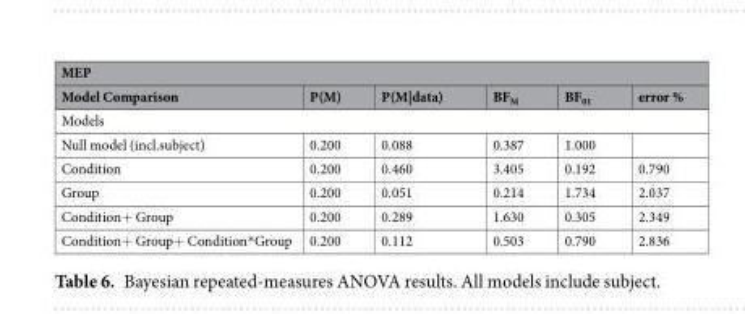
<table><thead><tr><td colspan="6">MEP</td></tr><tr><td>Model Comparison</td><td>P(M)</td><td>P(M|data)</td><td>BF<sub>M</sub></td><td>BF<sub>01</sub></td><td>error %</td></tr></thead><tbody><tr><td colspan="6">Models</td></tr><tr><td>Null model (incl.subject)</td><td>0.200</td><td>0.088</td><td>0.387</td><td>1.000</td><td></td></tr><tr><td>Condition</td><td>0.200</td><td>0.460</td><td>3.405</td><td>0.192</td><td>0.790</td></tr><tr><td>Group</td><td>0.200</td><td>0.051</td><td>0.214</td><td>1.734</td><td>2.037</td></tr><tr><td>Condition+ Group</td><td>0.200</td><td>0.289</td><td>1.630</td><td>0.305</td><td>2.349</td></tr><tr><td>Condition+ Group+ Condition*Group</td><td>0.200</td><td>0.112</td><td>0.503</td><td>0.790</td><td>2.836</td></tr></tbody></table>